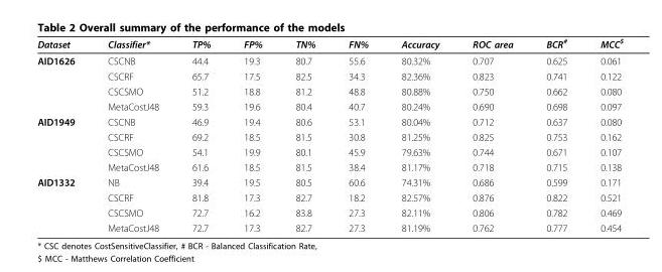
<table><thead><tr><td>Dataset</td><td>Classifier*</td><td>TP%</td><td>FP%</td><td>TN%</td><td>FN%</td><td>Accuracy</td><td>ROC area</td><td>BCR<sup>#</sup></td><td>MCC<sup>$</sup></td></tr></thead><tbody><tr><td rowspan="4">AID1626</td><td>CSCNB</td><td>44.4</td><td>19.3</td><td>80.7</td><td>55.6</td><td>80.32%</td><td>0.707</td><td>0.625</td><td>0.061</td></tr><tr><td>CSCRF</td><td>65.7</td><td>17.5</td><td>82.5</td><td>34.3</td><td>82.36%</td><td>0.823</td><td>0.741</td><td>0.122</td></tr><tr><td>CSCSMO</td><td>51.2</td><td>18.8</td><td>81.2</td><td>48.8</td><td>80.88%</td><td>0.750</td><td>0.662</td><td>0.080</td></tr><tr><td>MetaCostJ48</td><td>59.3</td><td>19.6</td><td>80.4</td><td>40.7</td><td>80.24%</td><td>0.690</td><td>0.698</td><td>0.097</td></tr><tr><td rowspan="4">AID1949</td><td>CSCNB</td><td>46.9</td><td>19.4</td><td>80.6</td><td>53.1</td><td>80.04%</td><td>0.712</td><td>0.637</td><td>0.080</td></tr><tr><td>CSCRF</td><td>69.2</td><td>18.5</td><td>81.5</td><td>30.8</td><td>81.25%</td><td>0.825</td><td>0.753</td><td>0.162</td></tr><tr><td>CSCSMO</td><td>54.1</td><td>19.9</td><td>80.1</td><td>45.9</td><td>79.63%</td><td>0.744</td><td>0.671</td><td>0.107</td></tr><tr><td>MetaCostJ48</td><td>61.6</td><td>18.5</td><td>81.5</td><td>38.4</td><td>81.17%</td><td>0.718</td><td>0.715</td><td>0.138</td></tr><tr><td rowspan="4">AID1332</td><td>NB</td><td>39.4</td><td>19.5</td><td>80.5</td><td>60.6</td><td>74.31%</td><td>0.686</td><td>0.599</td><td>0.171</td></tr><tr><td>CSCRF</td><td>81.8</td><td>17.3</td><td>82.7</td><td>18.2</td><td>82.57%</td><td>0.876</td><td>0.822</td><td>0.521</td></tr><tr><td>CSCSMO</td><td>72.7</td><td>16.2</td><td>83.8</td><td>27.3</td><td>82.11%</td><td>0.806</td><td>0.782</td><td>0.469</td></tr><tr><td>MetaCostJ48</td><td>72.7</td><td>17.3</td><td>82.7</td><td>27.3</td><td>81.19%</td><td>0.762</td><td>0.777</td><td>0.454</td></tr></tbody></table>